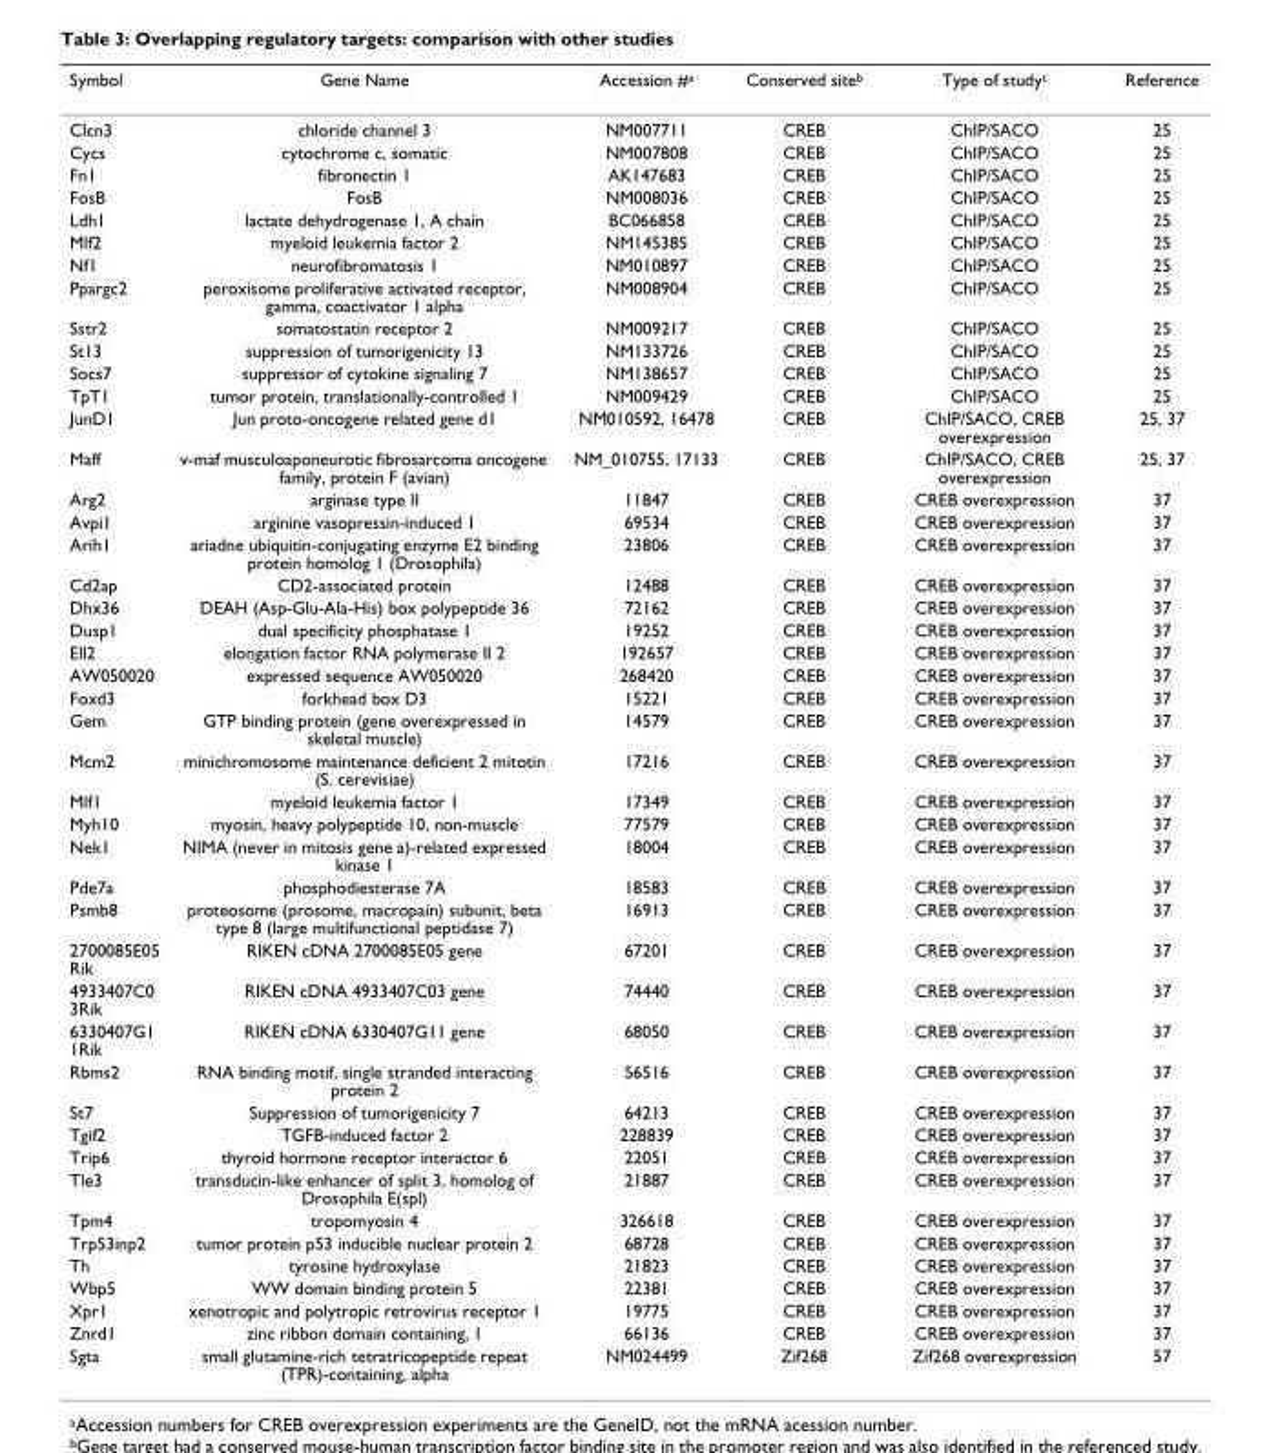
<table><thead><tr><td>Symbol</td><td>Gene Name</td><td>Accession #a</td><td>Conserved siteb</td><td>Type of studyc</td><td>Reference</td></tr></thead><tbody><tr><td>Clcn3</td><td>chloride channel 3</td><td>NM007711</td><td>CREB</td><td>ChIP/SACO</td><td>25</td></tr><tr><td>Cycs</td><td>cytochrome c, somatic</td><td>NM007808</td><td>CREB</td><td>ChIP/SACO</td><td>25</td></tr><tr><td>Fn1</td><td>fibronectin 1</td><td>AK147683</td><td>CREB</td><td>ChIP/SACO</td><td>25</td></tr><tr><td>FosB</td><td>FosB</td><td>NM008036</td><td>CREB</td><td>ChIP/SACO</td><td>25</td></tr><tr><td>Ldh1</td><td>lactate dehydrogenase 1, A chain</td><td>BC066858</td><td>CREB</td><td>ChIP/SACO</td><td>25</td></tr><tr><td>Mlf2</td><td>myeloid leukemia factor 2</td><td>NM145385</td><td>CREB</td><td>ChIP/SACO</td><td>25</td></tr><tr><td>Nf1</td><td>neurofibromatosis 1</td><td>NM010897</td><td>CREB</td><td>ChIP/SACO</td><td>25</td></tr><tr><td>Ppargc2</td><td>peroxisome proliferative activated receptor, gamma, coactivator 1 alpha</td><td>NM008904</td><td>CREB</td><td>ChIP/SACO</td><td>25</td></tr><tr><td>Sstr2</td><td>somatostatin receptor 2</td><td>NM009217</td><td>CREB</td><td>ChIP/SACO</td><td>25</td></tr><tr><td>St13</td><td>suppression of tumorigenicity 13</td><td>NM133726</td><td>CREB</td><td>ChIP/SACO</td><td>25</td></tr><tr><td>Socs7</td><td>suppressor of cytokine signaling 7</td><td>NM138657</td><td>CREB</td><td>ChIP/SACO</td><td>25</td></tr><tr><td>TpT1</td><td>tumor protein, translationally-controlled 1</td><td>NM009429</td><td>CREB</td><td>ChIP/SACO</td><td>25</td></tr><tr><td>JunD1</td><td>Jun proto-oncogene related gene d1</td><td>NM010592, 16478</td><td>CREB</td><td>ChIP/SACO, CREB overexpression</td><td>25, 37</td></tr><tr><td>Maff</td><td>v-maf musculoaponeurotic fibrosarcoma oncogene family, protein F (avian)</td><td>NM_010755, 17133</td><td>CREB</td><td>ChIP/SACO, CREB overexpression</td><td>25, 37</td></tr><tr><td>Arg2</td><td>arginase type II</td><td>11847</td><td>CREB</td><td>CREB overexpression</td><td>37</td></tr><tr><td>Avpi1</td><td>arginine vasopressin-induced 1</td><td>69534</td><td>CREB</td><td>CREB overexpression</td><td>37</td></tr><tr><td>Arih1</td><td>ariadne ubiquitin-conjugating enzyme E2 binding protein homolog 1 (Drosophila)</td><td>23806</td><td>CREB</td><td>CREB overexpression</td><td>37</td></tr><tr><td>Cd2ap</td><td>CD2-associated protein</td><td>12488</td><td>CREB</td><td>CREB overexpression</td><td>37</td></tr><tr><td>Dhx36</td><td>DEAH (Asp-Glu-Ala-His) box polypeptide 36</td><td>72162</td><td>CREB</td><td>CREB overexpression</td><td>37</td></tr><tr><td>Dusp1</td><td>dual specificity phosphatase 1</td><td>19252</td><td>CREB</td><td>CREB overexpression</td><td>37</td></tr><tr><td>Ell2</td><td>elongation factor RNA polymerase II 2</td><td>192657</td><td>CREB</td><td>CREB overexpression</td><td>37</td></tr><tr><td>AW050020</td><td>expressed sequence AW050020</td><td>268420</td><td>CREB</td><td>CREB overexpression</td><td>37</td></tr><tr><td>Foxd3</td><td>forkhead box D3</td><td>15221</td><td>CREB</td><td>CREB overexpression</td><td>37</td></tr><tr><td>Gem</td><td>GTP binding protein (gene overexpressed in skeletal muscle)</td><td>14579</td><td>CREB</td><td>CREB overexpression</td><td>37</td></tr><tr><td>Mcm2</td><td>minichromosome maintenance deficient 2 mitotin (S. cerevisiae)</td><td>17216</td><td>CREB</td><td>CREB overexpression</td><td>37</td></tr><tr><td>Mlf1</td><td>myeloid leukemia factor 1</td><td>17349</td><td>CREB</td><td>CREB overexpression</td><td>37</td></tr><tr><td>Myh10</td><td>myosin, heavy polypeptide 10, non-muscle</td><td>77579</td><td>CREB</td><td>CREB overexpression</td><td>37</td></tr><tr><td>Nek1</td><td>NIMA (never in mitosis gene a)-related expressed kinase 1</td><td>18004</td><td>CREB</td><td>CREB overexpression</td><td>37</td></tr><tr><td>Pde7a</td><td>phosphodiesterase 7A</td><td>18583</td><td>CREB</td><td>CREB overexpression</td><td>37</td></tr><tr><td>Psmb8</td><td>proteosome (prosome, macropain) subunit, beta type 8 (large multifunctional peptidase 7)</td><td>16913</td><td>CREB</td><td>CREB overexpression</td><td>37</td></tr><tr><td>2700085E05 Rik</td><td>RIKEN cDNA 2700085E05 gene</td><td>67201</td><td>CREB</td><td>CREB overexpression</td><td>37</td></tr><tr><td>4933407C0 3Rik</td><td>RIKEN cDNA 4933407C03 gene</td><td>74440</td><td>CREB</td><td>CREB overexpression</td><td>37</td></tr><tr><td>6330407G1 1Rik</td><td>RIKEN cDNA 6330407G11 gene</td><td>68050</td><td>CREB</td><td>CREB overexpression</td><td>37</td></tr><tr><td>Rbms2</td><td>RNA binding motif, single stranded interacting protein 2</td><td>56516</td><td>CREB</td><td>CREB overexpression</td><td>37</td></tr><tr><td>St7</td><td>Suppression of tumorigenicity 7</td><td>64213</td><td>CREB</td><td>CREB overexpression</td><td>37</td></tr><tr><td>Tgif2</td><td>TGFB-induced factor 2</td><td>228839</td><td>CREB</td><td>CREB overexpression</td><td>37</td></tr><tr><td>Trip6</td><td>thyroid hormone receptor interactor 6</td><td>22051</td><td>CREB</td><td>CREB overexpression</td><td>37</td></tr><tr><td>Tle3</td><td>transducin-like enhancer of split 3, homolog of Drosophila E(spl)</td><td>21887</td><td>CREB</td><td>CREB overexpression</td><td>37</td></tr><tr><td>Tpm4</td><td>tropomyosin 4</td><td>326618</td><td>CREB</td><td>CREB overexpression</td><td>37</td></tr><tr><td>Trp53inp2</td><td>tumor protein p53 inducible nuclear protein 2</td><td>68728</td><td>CREB</td><td>CREB overexpression</td><td>37</td></tr><tr><td>Th</td><td>tyrosine hydroxylase</td><td>21823</td><td>CREB</td><td>CREB overexpression</td><td>37</td></tr><tr><td>Wbp5</td><td>WW domain binding protein 5</td><td>22381</td><td>CREB</td><td>CREB overexpression</td><td>37</td></tr><tr><td>Xpr1</td><td>xenotropic and polytropic retrovirus receptor 1</td><td>19775</td><td>CREB</td><td>CREB overexpression</td><td>37</td></tr><tr><td>Znrd1</td><td>zinc ribbon domain containing, 1</td><td>66136</td><td>CREB</td><td>CREB overexpression</td><td>37</td></tr><tr><td>Sgta</td><td>small glutamine-rich tetratricopeptide repeat (TPR)-containing, alpha</td><td>NM024499</td><td>Zif268</td><td>Zif268 overexpression</td><td>57</td></tr></tbody></table>